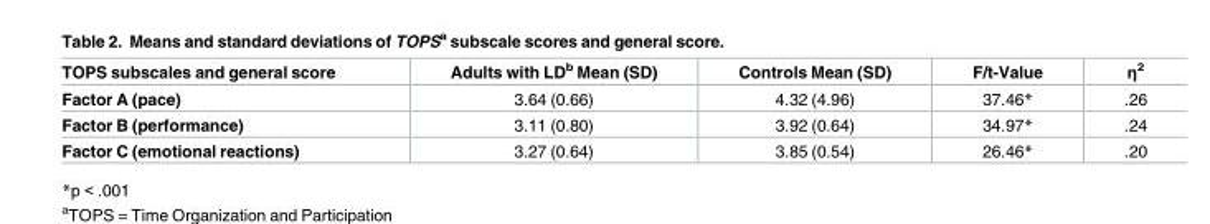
<table><thead><tr><td>TOPS subscales and general score</td><td>Adults with LD<sup>b</sup> Mean (SD)</td><td>Controls Mean (SD)</td><td>F/t-Value</td><td>η<sup>2</sup></td></tr></thead><tbody><tr><td>Factor A (pace)</td><td>3.64 (0.66)</td><td>4.32 (4.96)</td><td>37.46*</td><td>.26</td></tr><tr><td>Factor B (performance)</td><td>3.11 (0.80)</td><td>3.92 (0.64)</td><td>34.97*</td><td>.24</td></tr><tr><td>Factor C (emotional reactions)</td><td>3.27 (0.64)</td><td>3.85 (0.54)</td><td>26.46*</td><td>.20</td></tr></tbody></table>